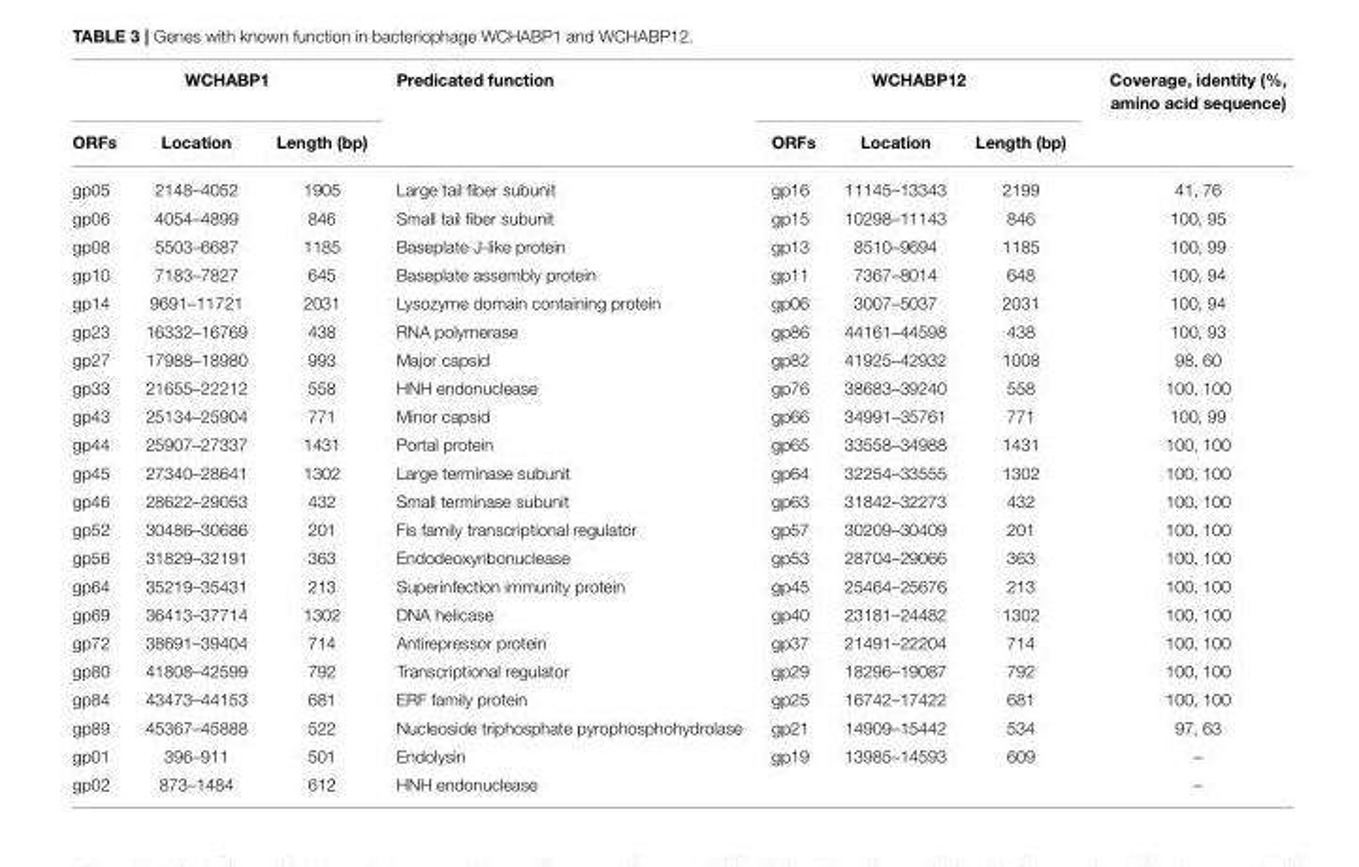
<table><thead><tr><td colspan="3">WCHABP1</td><td rowspan="2">Predicated function</td><td colspan="3">WCHABP12</td><td rowspan="2">Coverage, identity (%, amino acid sequence)</td></tr><tr><td>ORFs</td><td>Location</td><td>Length (bp)</td><td>ORFs</td><td>Location</td><td>Length (bp)</td></tr></thead><tbody><tr><td>gp05</td><td>2148–4052</td><td>1905</td><td>Large tail fiber subunit</td><td>gp16</td><td>11145–13343</td><td>2199</td><td>41, 76</td></tr><tr><td>gp06</td><td>4054–4899</td><td>846</td><td>Small tail fiber subunit</td><td>gp15</td><td>10298–11143</td><td>846</td><td>100, 95</td></tr><tr><td>gp08</td><td>5503–6687</td><td>1185</td><td>Baseplate J-like protein</td><td>gp13</td><td>8510–9694</td><td>1185</td><td>100, 99</td></tr><tr><td>gp10</td><td>7183–7827</td><td>645</td><td>Baseplate assembly protein</td><td>gp11</td><td>7367–8014</td><td>648</td><td>100, 94</td></tr><tr><td>gp14</td><td>9691–11721</td><td>2031</td><td>Lysozyme domain containing protein</td><td>gp06</td><td>3007–5037</td><td>2031</td><td>100, 94</td></tr><tr><td>gp23</td><td>16332–16769</td><td>438</td><td>RNA polymerase</td><td>gp86</td><td>44161–44598</td><td>438</td><td>100, 93</td></tr><tr><td>gp27</td><td>17988–18980</td><td>993</td><td>Major capsid</td><td>gp82</td><td>41925–42932</td><td>1008</td><td>98, 60</td></tr><tr><td>gp33</td><td>21655–22212</td><td>558</td><td>HNH endonuclease</td><td>gp76</td><td>38683–39240</td><td>558</td><td>100, 100</td></tr><tr><td>gp43</td><td>25134–25904</td><td>771</td><td>Minor capsid</td><td>gp66</td><td>34991–35761</td><td>771</td><td>100, 99</td></tr><tr><td>gp44</td><td>25907–27337</td><td>1431</td><td>Portal protein</td><td>gp65</td><td>33558–34988</td><td>1431</td><td>100, 100</td></tr><tr><td>gp45</td><td>27340–28641</td><td>1302</td><td>Large terminase subunit</td><td>gp64</td><td>32254–33555</td><td>1302</td><td>100, 100</td></tr><tr><td>gp46</td><td>28622–29053</td><td>432</td><td>Small terminase subunit</td><td>gp63</td><td>31842–32273</td><td>432</td><td>100, 100</td></tr><tr><td>gp52</td><td>30486–30686</td><td>201</td><td>Fis family transcriptional regulator</td><td>gp57</td><td>30209–30409</td><td>201</td><td>100, 100</td></tr><tr><td>gp56</td><td>31829–32191</td><td>363</td><td>Endodeoxyribonuclease</td><td>gp53</td><td>28704–29066</td><td>363</td><td>100, 100</td></tr><tr><td>gp64</td><td>35219–35431</td><td>213</td><td>Superinfection immunity protein</td><td>gp45</td><td>25464–25676</td><td>213</td><td>100, 100</td></tr><tr><td>gp69</td><td>36413–37714</td><td>1302</td><td>DNA helicase</td><td>gp40</td><td>23181–24482</td><td>1302</td><td>100, 100</td></tr><tr><td>gp72</td><td>38691–39404</td><td>714</td><td>Antirepressor protein</td><td>gp37</td><td>21491–22204</td><td>714</td><td>100, 100</td></tr><tr><td>gp80</td><td>41808–42599</td><td>792</td><td>Transcriptional regulator</td><td>gp29</td><td>18296–19087</td><td>792</td><td>100, 100</td></tr><tr><td>gp84</td><td>43473–44153</td><td>681</td><td>ERF family protein</td><td>gp25</td><td>16742–17422</td><td>681</td><td>100, 100</td></tr><tr><td>gp89</td><td>45367–45888</td><td>522</td><td>Nucleoside triphosphate pyrophosphohydrolase</td><td>gp21</td><td>14909–15442</td><td>534</td><td>97, 63</td></tr><tr><td>gp01</td><td>396–911</td><td>501</td><td>Endolysin</td><td>gp19</td><td>13985–14593</td><td>609</td><td>–</td></tr><tr><td>gp02</td><td>873–1484</td><td>612</td><td>HNH endonuclease</td><td></td><td></td><td></td><td>–</td></tr></tbody></table>